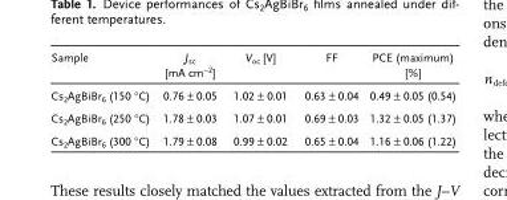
<table><thead><tr><td>Sample</td><td>J<sub>sc</sub> [mA cm<sup>−2</sup>]</td><td>V<sub>oc</sub> [V]</td><td>FF</td><td>PCE (maximum) [%]</td></tr></thead><tbody><tr><td>Cs<sub>2</sub>AgBiBr<sub>6</sub> (150 °C)</td><td>0.76 ± 0.05</td><td>1.02 ± 0.01</td><td>0.63 ± 0.04</td><td>0.49 ± 0.05 (0.54)</td></tr><tr><td>Cs<sub>2</sub>AgBiBr<sub>6</sub> (250 °C)</td><td>1.78 ± 0.03</td><td>1.07 ± 0.01</td><td>0.69 ± 0.03</td><td>1.32 ± 0.05 (1.37)</td></tr><tr><td>Cs<sub>2</sub>AgBiBr<sub>6</sub> (300 °C)</td><td>1.79 ± 0.08</td><td>0.99 ± 0.02</td><td>0.65 ± 0.04</td><td>1.16 ± 0.06 (1.22)</td></tr></tbody></table>